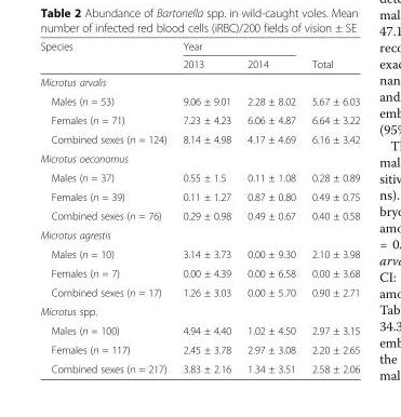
<table><thead><tr><td rowspan="2">Species</td><td colspan="2">Year</td><td rowspan="2">Total</td></tr><tr><td>2013</td><td>2014</td></tr></thead><tbody><tr><td colspan="4">Microtus arvalis</td></tr><tr><td>Males (n = 53)</td><td>9.06 ± 9.01</td><td>2.28 ± 8.02</td><td>5.67 ± 6.03</td></tr><tr><td>Females (n = 71)</td><td>7.23 ± 4.23</td><td>6.06 ± 4.87</td><td>6.64 ± 3.22</td></tr><tr><td>Combined sexes (n = 124)</td><td>8.14 ± 4.98</td><td>4.17 ± 4.69</td><td>6.16 ± 3.42</td></tr><tr><td colspan="4">Microtus oeconomus</td></tr><tr><td>Males (n = 37)</td><td>0.55 ± 1.5</td><td>0.11 ± 1.08</td><td>0.28 ± 0.89</td></tr><tr><td>Females (n = 39)</td><td>0.11 ± 1.27</td><td>0.87 ± 0.80</td><td>0.49 ± 0.75</td></tr><tr><td>Combined sexes (n = 76)</td><td>0.29 ± 0.98</td><td>0.49 ± 0.67</td><td>0.40 ± 0.58</td></tr><tr><td colspan="4">Microtus agrestis</td></tr><tr><td>Males (n = 10)</td><td>3.14 ± 3.73</td><td>0.00 ± 9.30</td><td>2.10 ± 3.98</td></tr><tr><td>Females (n = 7)</td><td>0.00 ± 4.39</td><td>0.00 ± 6.58</td><td>0.00 ± 3.68</td></tr><tr><td>Combined sexes (n = 17)</td><td>1.26 ± 3.03</td><td>0.00 ± 5.70</td><td>0.90 ± 2.71</td></tr><tr><td colspan="4">Microtus spp.</td></tr><tr><td>Males (n = 100)</td><td>4.94 ± 4.40</td><td>1.02 ± 4.50</td><td>2.97 ± 3.15</td></tr><tr><td>Females (n = 117)</td><td>2.45 ± 3.78</td><td>2.97 ± 3.08</td><td>2.20 ± 2.65</td></tr><tr><td>Combined sexes (n = 217)</td><td>3.83 ± 2.16</td><td>1.34 ± 3.51</td><td>2.58 ± 2.06</td></tr></tbody></table>